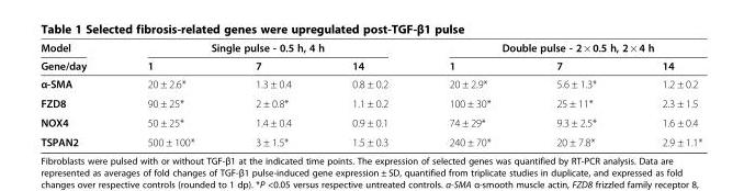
<table><thead><tr><td rowspan="2">Model Gene/day</td><td colspan="3">Single pulse - 0.5 h, 4 h</td><td colspan="3">Double pulse - 2 × 0.5 h, 2 × 4 h</td></tr><tr><td>1</td><td>7</td><td>14</td><td>1</td><td>7</td><td>14</td></tr></thead><tbody><tr><td>α-SMA</td><td>20 ± 2.6*</td><td>1.3 ± 0.4</td><td>0.8 ± 0.2</td><td>20 ± 2.9*</td><td>5.6 ± 1.3*</td><td>1.2 ± 0.2</td></tr><tr><td>FZD8</td><td>90 ± 25*</td><td>2 ± 0.8*</td><td>1.1 ± 0.2</td><td>100 ± 30*</td><td>25 ± 11*</td><td>2.3 ± 1.5</td></tr><tr><td>NOX4</td><td>50 ± 25*</td><td>1.4 ± 0.4</td><td>0.9 ± 0.1</td><td>74 ± 29*</td><td>9.3 ± 2.5*</td><td>1.6 ± 0.4</td></tr><tr><td>TSPAN2</td><td>500 ± 100*</td><td>3 ± 1.5*</td><td>1.5 ± 0.3</td><td>240 ± 70*</td><td>20 ± 7.8*</td><td>2.9 ± 1.1*</td></tr></tbody></table>